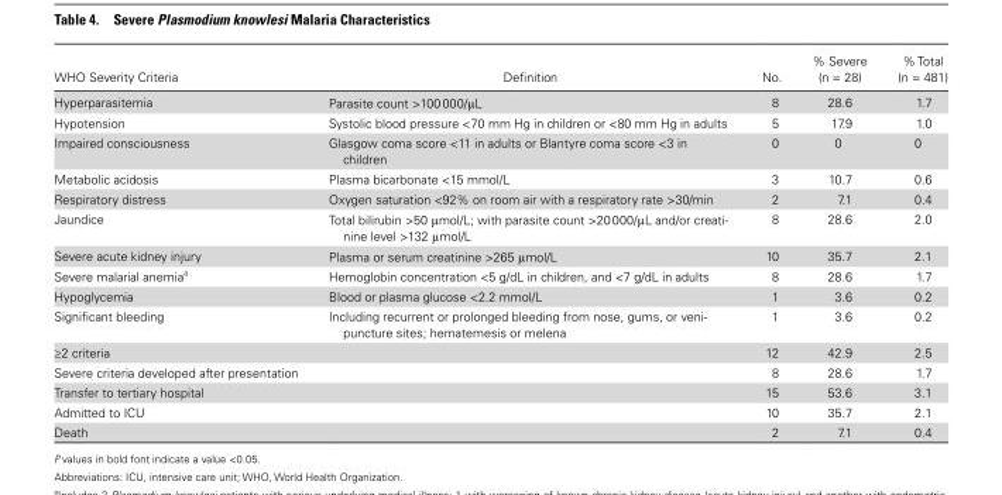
<table><thead><tr><td>WHO Severity Criteria</td><td>Definition</td><td>No.</td><td>% Severe (n = 28)</td><td>% Total (n = 481)</td></tr></thead><tbody><tr><td>Hyperparasitemia</td><td>Parasite count &gt;100 000/μL</td><td>8</td><td>28.6</td><td>1.7</td></tr><tr><td>Hypotension</td><td>Systolic blood pressure &lt;70 mm Hg in children or &lt;80 mm Hg in adults</td><td>5</td><td>17.9</td><td>1.0</td></tr><tr><td>Impaired consciousness</td><td>Glasgow coma score &lt;11 in adults or Blantyre coma score &lt;3 in children</td><td>0</td><td>0</td><td>0</td></tr><tr><td>Metabolic acidosis</td><td>Plasma bicarbonate &lt;15 mmol/L</td><td>3</td><td>10.7</td><td>0.6</td></tr><tr><td>Respiratory distress</td><td>Oxygen saturation &lt;92% on room air with a respiratory rate &gt;30/min</td><td>2</td><td>7.1</td><td>0.4</td></tr><tr><td>Jaundice</td><td>Total bilirubin &gt;50 μmol/L; with parasite count &gt;20 000/μL and/or creati- nine level &gt;132 μmol/L</td><td>8</td><td>28.6</td><td>2.0</td></tr><tr><td>Severe acute kidney injury</td><td>Plasma or serum creatinine &gt;265 μmol/L</td><td>10</td><td>35.7</td><td>2.1</td></tr><tr><td>Severe malarial anemia<sup>a</sup></td><td>Hemoglobin concentration &lt;5 g/dL in children, and &lt;7 g/dL in adults</td><td>8</td><td>28.6</td><td>1.7</td></tr><tr><td>Hypoglycemia</td><td>Blood or plasma glucose &lt;2.2 mmol/L</td><td>1</td><td>3.6</td><td>0.2</td></tr><tr><td>Significant bleeding</td><td>Including recurrent or prolonged bleeding from nose, gums, or veni- puncture sites; hematemesis or melena</td><td>1</td><td>3.6</td><td>0.2</td></tr><tr><td>≥2 criteria</td><td></td><td>12</td><td>42.9</td><td>2.5</td></tr><tr><td>Severe criteria developed after presentation</td><td></td><td>8</td><td>28.6</td><td>1.7</td></tr><tr><td>Transfer to tertiary hospital</td><td></td><td>15</td><td>53.6</td><td>3.1</td></tr><tr><td>Admitted to ICU</td><td></td><td>10</td><td>35.7</td><td>2.1</td></tr><tr><td>Death</td><td></td><td>2</td><td>7.1</td><td>0.4</td></tr></tbody></table>